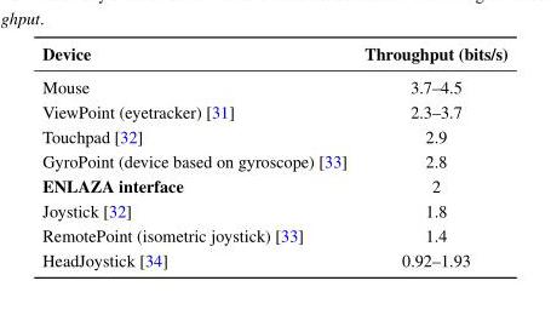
<table><thead><tr><td>Device</td><td>Throughput (bits/s)</td></tr></thead><tbody><tr><td>Mouse</td><td>3.7–4.5</td></tr><tr><td>ViewPoint (eyetracker) [31]</td><td>2.3–3.7</td></tr><tr><td>Touchpad [32]</td><td>2.9</td></tr><tr><td>GyroPoint (device based on gyroscope) [33]</td><td>2.8</td></tr><tr><td>ENLAZA interface</td><td>2</td></tr><tr><td>Joystick [32]</td><td>1.8</td></tr><tr><td>RemotePoint (isometric joystick) [33]</td><td>1.4</td></tr><tr><td>HeadJoystick [34]</td><td>0.92–1.93</td></tr></tbody></table>